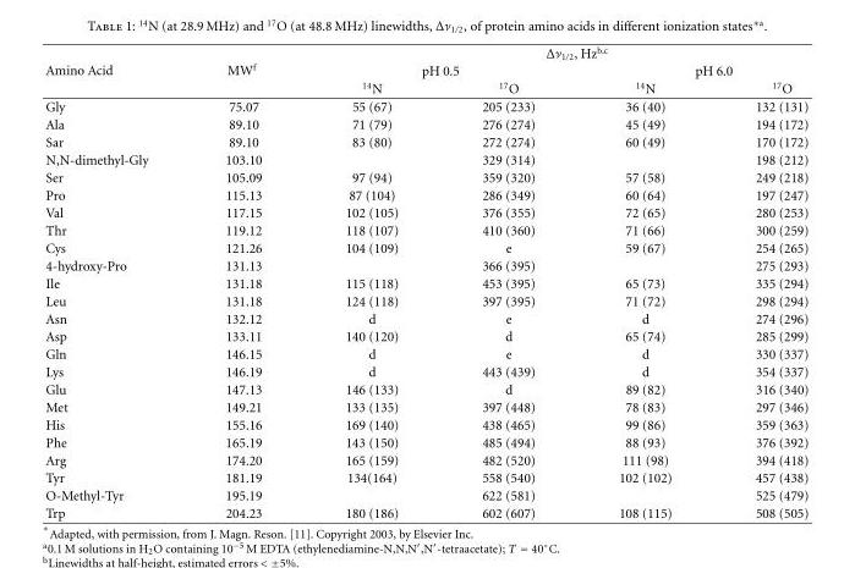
<table><thead><tr><td rowspan="3">Amino Acid</td><td rowspan="3">MW<sup>f</sup></td><td colspan="4">Δν<sub>1/2</sub>, Hz<sup>b,c</sup></td></tr><tr><td colspan="2">pH 0.5</td><td colspan="2">pH 6.0</td></tr><tr><td><sup>14</sup>N</td><td><sup>17</sup>O</td><td><sup>14</sup>N</td><td><sup>17</sup>O</td></tr></thead><tbody><tr><td>Gly</td><td>75.07</td><td>55 (67)</td><td>205 (233)</td><td>36 (40)</td><td>132 (131)</td></tr><tr><td>Ala</td><td>89.10</td><td>71 (79)</td><td>276 (274)</td><td>45 (49)</td><td>194 (172)</td></tr><tr><td>Sar</td><td>89.10</td><td>83 (80)</td><td>272 (274)</td><td>60 (49)</td><td>170 (172)</td></tr><tr><td>N,N-dimethyl-Gly</td><td>103.10</td><td></td><td>329 (314)</td><td></td><td>198 (212)</td></tr><tr><td>Ser</td><td>105.09</td><td>97 (94)</td><td>359 (320)</td><td>57 (58)</td><td>249 (218)</td></tr><tr><td>Pro</td><td>115.13</td><td>87 (104)</td><td>286 (349)</td><td>60 (64)</td><td>197 (247)</td></tr><tr><td>Val</td><td>117.15</td><td>102 (105)</td><td>376 (355)</td><td>72 (65)</td><td>280 (253)</td></tr><tr><td>Thr</td><td>119.12</td><td>118 (107)</td><td>410 (360)</td><td>71 (66)</td><td>300 (259)</td></tr><tr><td>Cys</td><td>121.26</td><td>104 (109)</td><td>e</td><td>59 (67)</td><td>254 (265)</td></tr><tr><td>4-hydroxy-Pro</td><td>131.13</td><td></td><td>366 (395)</td><td></td><td>275 (293)</td></tr><tr><td>Ile</td><td>131.18</td><td>115 (118)</td><td>453 (395)</td><td>65 (73)</td><td>335 (294)</td></tr><tr><td>Leu</td><td>131.18</td><td>124 (118)</td><td>397 (395)</td><td>71 (72)</td><td>298 (294)</td></tr><tr><td>Asn</td><td>132.12</td><td>d</td><td>e</td><td>d</td><td>274 (296)</td></tr><tr><td>Asp</td><td>133.11</td><td>140 (120)</td><td>d</td><td>65 (74)</td><td>285 (299)</td></tr><tr><td>Gln</td><td>146.15</td><td>d</td><td>e</td><td>d</td><td>330 (337)</td></tr><tr><td>Lys</td><td>146.19</td><td>d</td><td>443 (439)</td><td>d</td><td>354 (337)</td></tr><tr><td>Glu</td><td>147.13</td><td>146 (133)</td><td>d</td><td>89 (82)</td><td>316 (340)</td></tr><tr><td>Met</td><td>149.21</td><td>133 (135)</td><td>397 (448)</td><td>78 (83)</td><td>297 (346)</td></tr><tr><td>His</td><td>155.16</td><td>169 (140)</td><td>438 (465)</td><td>99 (86)</td><td>359 (363)</td></tr><tr><td>Phe</td><td>165.19</td><td>143 (150)</td><td>485 (494)</td><td>88 (93)</td><td>376 (392)</td></tr><tr><td>Arg</td><td>174.20</td><td>165 (159)</td><td>482 (520)</td><td>111 (98)</td><td>394 (418)</td></tr><tr><td>Tyr</td><td>181.19</td><td>134(164)</td><td>558 (540)</td><td>102 (102)</td><td>457 (438)</td></tr><tr><td>O-Methyl-Tyr</td><td>195.19</td><td></td><td>622 (581)</td><td></td><td>525 (479)</td></tr><tr><td>Trp</td><td>204.23</td><td>180 (186)</td><td>602 (607)</td><td>108 (115)</td><td>508 (505)</td></tr></tbody></table>